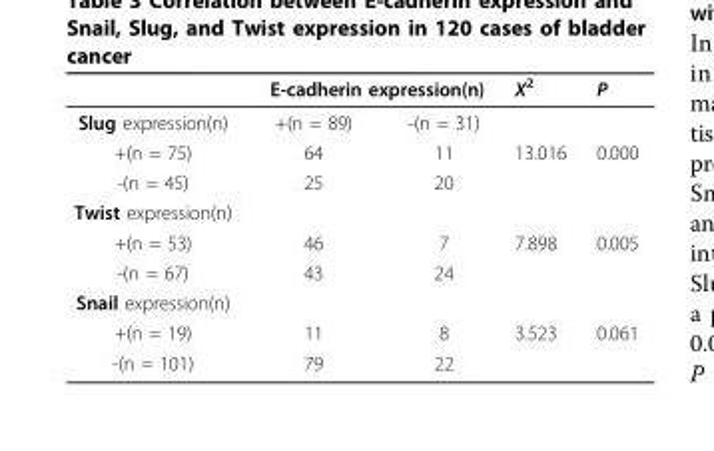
<table><thead><tr><td rowspan="2">Slug expression(n)</td><td colspan="2">E-cadherin expression(n)</td><td rowspan="2">X<sup>2</sup></td><td rowspan="2">P</td></tr><tr><td>+(n = 89)</td><td>-(n = 31)</td></tr></thead><tbody><tr><td>+(n = 75)</td><td>64</td><td>11</td><td>13.016</td><td>0.000</td></tr><tr><td>-(n = 45)</td><td>25</td><td>20</td><td></td><td></td></tr><tr><td colspan="5">Twist expression(n)</td></tr><tr><td>+(n = 53)</td><td>46</td><td>7</td><td>7.898</td><td>0.005</td></tr><tr><td>-(n = 67)</td><td>43</td><td>24</td><td></td><td></td></tr><tr><td colspan="5">Snail expression(n)</td></tr><tr><td>+(n = 19)</td><td>11</td><td>8</td><td>3.523</td><td>0.061</td></tr><tr><td>-(n = 101)</td><td>79</td><td>22</td><td></td><td></td></tr></tbody></table>